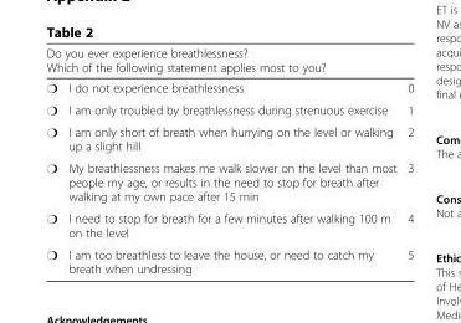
<table><thead><tr><td colspan="2">Do you ever experience breathlessness? Which of the following statement applies most to you?</td><td rowspan="2">0</td></tr><tr><td>❍</td><td>I do not experience breathlessness</td></tr></thead><tbody><tr><td>❍</td><td>I am only troubled by breathlessness during strenuous exercise</td><td>1</td></tr><tr><td>❍</td><td>I am only short of breath when hurrying on the level or walking up a slight hill</td><td>2</td></tr><tr><td>❍</td><td>My breathlessness makes me walk slower on the level than most people my age, or results in the need to stop for breath after walking at my own pace after 15 min</td><td>3</td></tr><tr><td>❍</td><td>I need to stop for breath for a few minutes after walking 100 m on the level</td><td>4</td></tr><tr><td>❍</td><td>I am too breathless to leave the house, or need to catch my breath when undressing</td><td>5</td></tr></tbody></table>